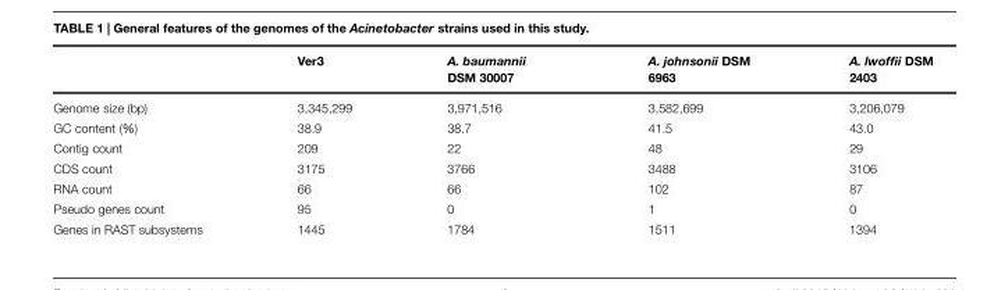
<table><thead><tr><td></td><td>Ver3</td><td>A. baumannii DSM 30007</td><td>A. johnsonii DSM 6963</td><td>A. lwoffii DSM 2403</td></tr></thead><tbody><tr><td>Genome size (bp)</td><td>3,345,299</td><td>3,971,516</td><td>3,582,699</td><td>3,206,079</td></tr><tr><td>GC content (%)</td><td>38.9</td><td>38.7</td><td>41.5</td><td>43.0</td></tr><tr><td>Contig count</td><td>209</td><td>22</td><td>48</td><td>29</td></tr><tr><td>CDS count</td><td>3175</td><td>3766</td><td>3488</td><td>3106</td></tr><tr><td>RNA count</td><td>66</td><td>66</td><td>102</td><td>87</td></tr><tr><td>Pseudo genes count</td><td>95</td><td>0</td><td>1</td><td>0</td></tr><tr><td>Genes in RAST subsystems</td><td>1445</td><td>1784</td><td>1511</td><td>1394</td></tr></tbody></table>